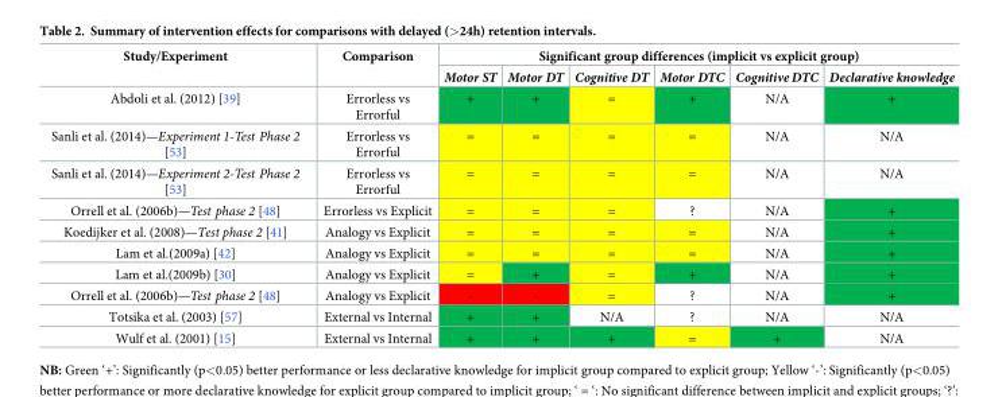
<table><thead><tr><td rowspan="2">Study/Experiment</td><td rowspan="2">Comparison</td><td colspan="6">Significant group differences (implicit vs explicit group)</td></tr><tr><td>Motor ST</td><td>Motor DT</td><td>Cognitive DT</td><td>Motor DTC</td><td>Cognitive DTC</td><td>Declarative knowledge</td></tr></thead><tbody><tr><td>Abdoli et al. (2012) [39]</td><td>Errorless vs Errorful</td><td>+</td><td>+</td><td>=</td><td>+</td><td>N/A</td><td>+</td></tr><tr><td>Sanli et al. (2014)—Experiment 1-Test Phase 2 [53]</td><td>Errorless vs Errorful</td><td>=</td><td>=</td><td>=</td><td>=</td><td>N/A</td><td>N/A</td></tr><tr><td>Sanli et al. (2014)—Experiment 2-Test Phase 2 [53]</td><td>Errorless vs Errorful</td><td>=</td><td>=</td><td>=</td><td>=</td><td>N/A</td><td>N/A</td></tr><tr><td>Orrell et al. (2006b)—Test phase 2 [48]</td><td>Errorless vs Explicit</td><td>=</td><td>=</td><td>=</td><td>?</td><td>N/A</td><td>+</td></tr><tr><td>Koedijker et al. (2008)—Test phase 2 [41]</td><td>Analogy vs Explicit</td><td>=</td><td>=</td><td>=</td><td>=</td><td>N/A</td><td>+</td></tr><tr><td>Lam et al.(2009a) [42]</td><td>Analogy vs Explicit</td><td>=</td><td>=</td><td>=</td><td>=</td><td>N/A</td><td>+</td></tr><tr><td>Lam et al.(2009b) [30]</td><td>Analogy vs Explicit</td><td>=</td><td>+</td><td>=</td><td>+</td><td>N/A</td><td>+</td></tr><tr><td>Orrell et al. (2006b)—Test phase 2 [48]</td><td>Analogy vs Explicit</td><td>-</td><td>-</td><td>=</td><td>?</td><td>N/A</td><td>+</td></tr><tr><td>Totsika et al. (2003) [57]</td><td>External vs Internal</td><td>+</td><td>+</td><td>N/A</td><td>?</td><td>N/A</td><td>N/A</td></tr><tr><td>Wulf et al. (2001) [15]</td><td>External vs Internal</td><td>+</td><td>+</td><td>+</td><td>=</td><td>+</td><td>N/A</td></tr></tbody></table>